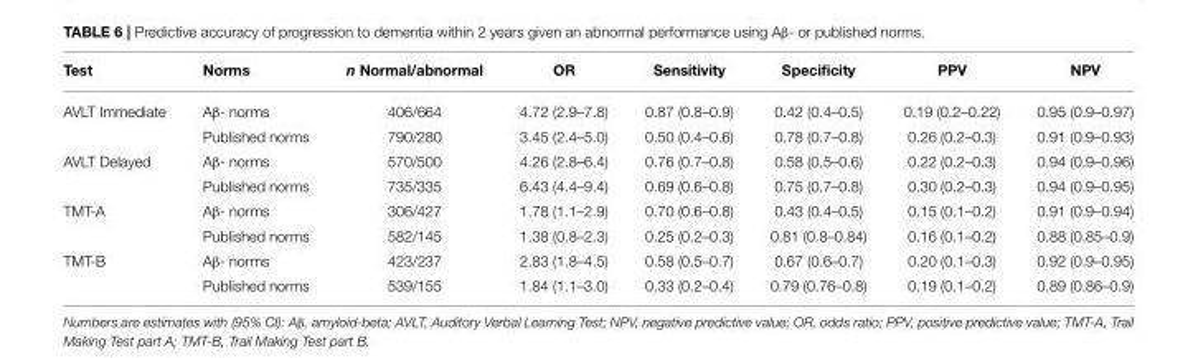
<table><thead><tr><td>Test</td><td>Norms</td><td>n Normal/abnormal</td><td>OR</td><td>Sensitivity</td><td>Specificity</td><td>PPV</td><td>NPV</td></tr></thead><tbody><tr><td rowspan="2">AVLT Immediate</td><td>Aβ- norms</td><td>406/664</td><td>4.72 (2.9–7.8)</td><td>0.87 (0.8–0.9)</td><td>0.42 (0.4–0.5)</td><td>0.19 (0.2–0.22)</td><td>0.95 (0.9–0.97)</td></tr><tr><td>Published norms</td><td>790/280</td><td>3.45 (2.4–5.0)</td><td>0.50 (0.4–0.6)</td><td>0.78 (0.7–0.8)</td><td>0.26 (0.2–0.3)</td><td>0.91 (0.9–0.93)</td></tr><tr><td rowspan="2">AVLT Delayed</td><td>Aβ- norms</td><td>570/500</td><td>4.26 (2.8–6.4)</td><td>0.76 (0.7–0.8)</td><td>0.58 (0.5–0.6)</td><td>0.22 (0.2–0.3)</td><td>0.94 (0.9–0.96)</td></tr><tr><td>Published norms</td><td>735/335</td><td>6.43 (4.4–9.4)</td><td>0.69 (0.6–0.8)</td><td>0.75 (0.7–0.8)</td><td>0.30 (0.2–0.3)</td><td>0.94 (0.9–0.95)</td></tr><tr><td rowspan="2">TMT-A</td><td>Aβ- norms</td><td>306/427</td><td>1.78 (1.1–2.9)</td><td>0.70 (0.6–0.8)</td><td>0.43 (0.4–0.5)</td><td>0.15 (0.1–0.2)</td><td>0.91 (0.9–0.94)</td></tr><tr><td>Published norms</td><td>582/145</td><td>1.38 (0.8–2.3)</td><td>0.25 (0.2–0.3)</td><td>0.81 (0.8–0.84)</td><td>0.16 (0.1–0.2)</td><td>0.88 (0.85–0.9)</td></tr><tr><td rowspan="2">TMT-B</td><td>Aβ- norms</td><td>423/237</td><td>2.83 (1.8–4.5)</td><td>0.58 (0.5–0.7)</td><td>0.67 (0.6–0.7)</td><td>0.20 (0.1–0.3)</td><td>0.92 (0.9–0.95)</td></tr><tr><td>Published norms</td><td>539/155</td><td>1.84 (1.1–3.0)</td><td>0.33 (0.2–0.4)</td><td>0.79 (0.76–0.8)</td><td>0.19 (0.1–0.2)</td><td>0.89 (0.86–0.9)</td></tr></tbody></table>